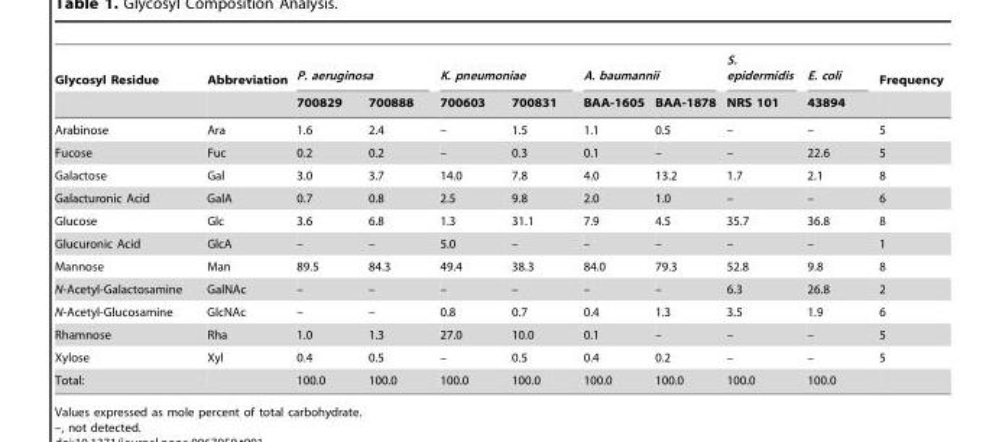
<table><thead><tr><td rowspan="2">Glycosyl Residue</td><td rowspan="2">Abbreviation</td><td colspan="2">P. aeruginosa</td><td colspan="2">K. pneumoniae</td><td colspan="2">A. baumannii</td><td rowspan="2">S. epidermidis NRS 101</td><td rowspan="2">E. coli 43894</td><td rowspan="2">Frequency</td></tr><tr><td>700829</td><td>700888</td><td>700603</td><td>700831</td><td>BAA-1605</td><td>BAA-1878</td></tr></thead><tbody><tr><td>Arabinose</td><td>Ara</td><td>1.6</td><td>2.4</td><td>–</td><td>1.5</td><td>1.1</td><td>0.5</td><td>–</td><td>–</td><td>5</td></tr><tr><td>Fucose</td><td>Fuc</td><td>0.2</td><td>0.2</td><td>–</td><td>0.3</td><td>0.1</td><td>–</td><td>–</td><td>22.6</td><td>5</td></tr><tr><td>Galactose</td><td>Gal</td><td>3.0</td><td>3.7</td><td>14.0</td><td>7.8</td><td>4.0</td><td>13.2</td><td>1.7</td><td>2.1</td><td>8</td></tr><tr><td>Galacturonic Acid</td><td>GalA</td><td>0.7</td><td>0.8</td><td>2.5</td><td>9.8</td><td>2.0</td><td>1.0</td><td>–</td><td>–</td><td>6</td></tr><tr><td>Glucose</td><td>Glc</td><td>3.6</td><td>6.8</td><td>1.3</td><td>31.1</td><td>7.9</td><td>4.5</td><td>35.7</td><td>36.8</td><td>8</td></tr><tr><td>Glucuronic Acid</td><td>GlcA</td><td>–</td><td>–</td><td>5.0</td><td>–</td><td>–</td><td>–</td><td>–</td><td>–</td><td>1</td></tr><tr><td>Mannose</td><td>Man</td><td>89.5</td><td>84.3</td><td>49.4</td><td>38.3</td><td>84.0</td><td>79.3</td><td>52.8</td><td>9.8</td><td>8</td></tr><tr><td>N-Acetyl-Galactosamine</td><td>GalNAc</td><td>–</td><td>–</td><td>–</td><td>–</td><td>–</td><td>–</td><td>6.3</td><td>26.8</td><td>2</td></tr><tr><td>N-Acetyl-Glucosamine</td><td>GlcNAc</td><td>–</td><td>–</td><td>0.8</td><td>0.7</td><td>0.4</td><td>1.3</td><td>3.5</td><td>1.9</td><td>6</td></tr><tr><td>Rhamnose</td><td>Rha</td><td>1.0</td><td>1.3</td><td>27.0</td><td>10.0</td><td>0.1</td><td>–</td><td>–</td><td>–</td><td>5</td></tr><tr><td>Xylose</td><td>Xyl</td><td>0.4</td><td>0.5</td><td>–</td><td>0.5</td><td>0.4</td><td>0.2</td><td>–</td><td>–</td><td>5</td></tr><tr><td>Total:</td><td></td><td>100.0</td><td>100.0</td><td>100.0</td><td>100.0</td><td>100.0</td><td>100.0</td><td>100.0</td><td>100.0</td><td></td></tr></tbody></table>